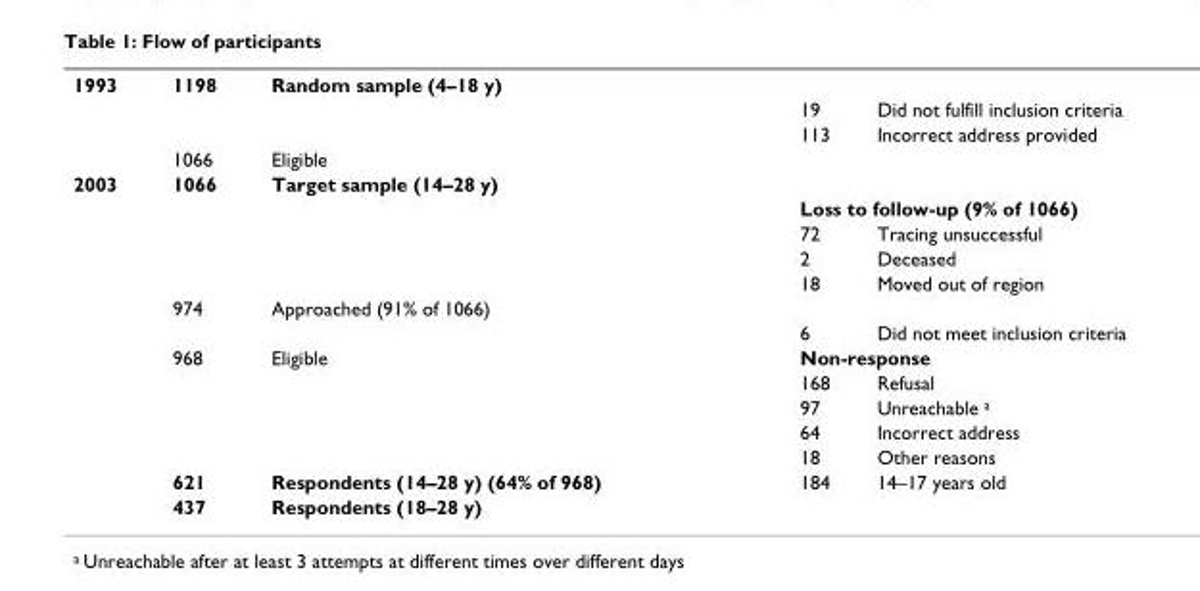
<table><tbody><tr><td rowspan="4">1993</td><td>1198</td><td>Random sample (4–18 y)</td><td></td><td></td></tr><tr><td></td><td></td><td>19</td><td>Did not fulfill inclusion criteria</td></tr><tr><td></td><td></td><td>113</td><td>Incorrect address provided</td></tr><tr><td>1066</td><td>Eligible</td><td></td><td></td></tr><tr><td rowspan="14">2003</td><td>1066</td><td>Target sample (14–28 y)</td><td></td><td></td></tr><tr><td></td><td></td><td colspan="2">Loss to follow-up (9% of 1066)</td></tr><tr><td></td><td></td><td>72</td><td>Tracing unsuccessful</td></tr><tr><td></td><td></td><td>2</td><td>Deceased</td></tr><tr><td></td><td></td><td>18</td><td>Moved out of region</td></tr><tr><td>974</td><td>Approached (91% of 1066)</td><td></td><td></td></tr><tr><td></td><td></td><td>6</td><td>Did not meet inclusion criteria</td></tr><tr><td>968</td><td>Eligible</td><td colspan="2">Non-response</td></tr><tr><td></td><td></td><td>168</td><td>Refusal</td></tr><tr><td></td><td></td><td>97</td><td>Unreachable a</td></tr><tr><td></td><td></td><td>64</td><td>Incorrect address</td></tr><tr><td></td><td></td><td>18</td><td>Other reasons</td></tr><tr><td>621</td><td>Respondents (14–28 y) (64% of 968)</td><td>184</td><td>14–17 years old</td></tr><tr><td>437</td><td>Respondents (18–28 y)</td><td></td><td></td></tr></tbody></table>